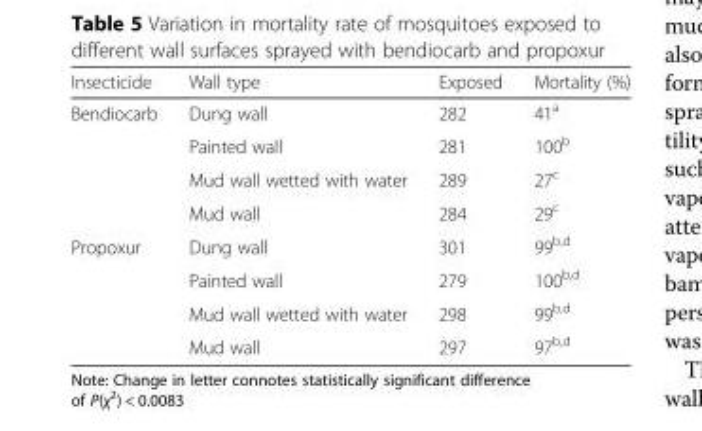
<table><thead><tr><td>Insecticide</td><td>Wall type</td><td>Exposed</td><td>Mortality (%)</td></tr></thead><tbody><tr><td rowspan="4">Bendiocarb</td><td>Dung wall</td><td>282</td><td>41<sup>a</sup></td></tr><tr><td>Painted wall</td><td>281</td><td>100<sup>b</sup></td></tr><tr><td>Mud wall wetted with water</td><td>289</td><td>27<sup>c</sup></td></tr><tr><td>Mud wall</td><td>284</td><td>29<sup>c</sup></td></tr><tr><td rowspan="4">Propoxur</td><td>Dung wall</td><td>301</td><td>99<sup>b,d</sup></td></tr><tr><td>Painted wall</td><td>279</td><td>100<sup>b,d</sup></td></tr><tr><td>Mud wall wetted with water</td><td>298</td><td>99<sup>b,d</sup></td></tr><tr><td>Mud wall</td><td>297</td><td>97<sup>b,d</sup></td></tr></tbody></table>